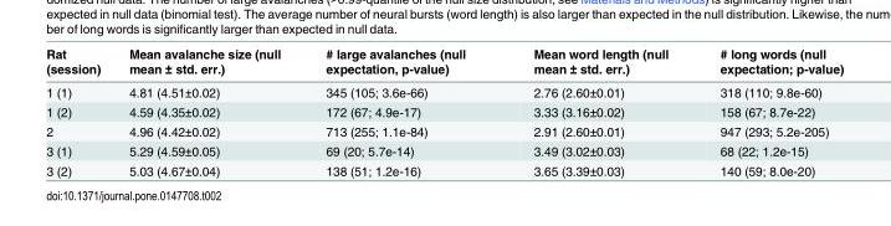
<table><thead><tr><td>Rat (session)</td><td>Mean avalanche size (null mean ± std. err.)</td><td># large avalanches (null expectation, p-value)</td><td>Mean word length (null mean ± std. err.)</td><td># long words (null expectation; p-value)</td></tr></thead><tbody><tr><td>1 (1)</td><td>4.81 (4.51±0.02)</td><td>345 (105; 3.6e-66)</td><td>2.76 (2.60±0.01)</td><td>318 (110; 9.8e-60)</td></tr><tr><td>1 (2)</td><td>4.59 (4.35±0.02)</td><td>172 (67; 4.9e-17)</td><td>3.33 (3.16±0.02)</td><td>158 (67; 8.7e-22)</td></tr><tr><td>2</td><td>4.96 (4.42±0.02)</td><td>713 (255; 1.1e-84)</td><td>2.91 (2.60±0.01)</td><td>947 (293; 5.2e-205)</td></tr><tr><td>3 (1)</td><td>5.29 (4.59±0.05)</td><td>69 (20; 5.7e-14)</td><td>3.49 (3.02±0.03)</td><td>68 (22; 1.2e-15)</td></tr><tr><td>3 (2)</td><td>5.03 (4.67±0.04)</td><td>138 (51; 1.2e-16)</td><td>3.65 (3.39±0.03)</td><td>140 (59; 8.0e-20)</td></tr></tbody></table>